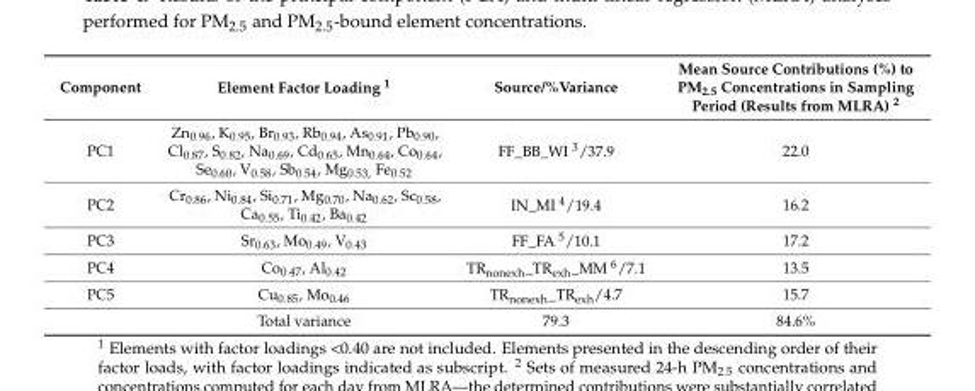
<table><thead><tr><td>Component</td><td>Element Factor Loading <sup>1</sup></td><td>Source/%Variance</td><td>Mean Source Contributions (%) to PM<sub>2.5</sub> Concentrations in Sampling Period (Results from MLRA) <sup>2</sup></td></tr></thead><tbody><tr><td>PC1</td><td>Zn<sub>0.96</sub>, K<sub>0.95</sub>, Br<sub>0.93</sub>, Rb<sub>0.94</sub>, As<sub>0.91</sub>, Pb<sub>0.90</sub>, Cl<sub>0.87</sub>, S<sub>0.82</sub>, Na<sub>0.69</sub>, Cd<sub>0.65</sub>, Mn<sub>0.64</sub>, Co<sub>0.64</sub>, Se<sub>0.60</sub>, V<sub>0.58</sub>, Sb<sub>0.54</sub>, Mg<sub>0.53,</sub> Fe<sub>0.52</sub></td><td>FF_BB_WI <sup>3</sup>/37.9</td><td>22.0</td></tr><tr><td>PC2</td><td>Cr<sub>0.86</sub>, Ni<sub>0.84</sub>, Si<sub>0.71</sub>, Mg<sub>0.70</sub>, Na<sub>0.62</sub>, Sc<sub>0.58</sub>, Ca<sub>0.55</sub>, Ti<sub>0.42</sub>, Ba<sub>0.42</sub></td><td>IN_MI <sup>4</sup>/19.4</td><td>16.2</td></tr><tr><td>PC3</td><td>Sr<sub>0.63</sub>, Mo<sub>0.49</sub>, V<sub>0.43</sub></td><td>FF_FA <sup>5</sup>/10.1</td><td>17.2</td></tr><tr><td>PC4</td><td>Co<sub>0.47</sub>, Al<sub>0.42</sub></td><td>TRnonexh_TRexh_MM 6/7.1</td><td>13.5</td></tr><tr><td rowspan="2">PC5</td><td>Cu<sub>0.85</sub>, Mo<sub>0.46</sub></td><td>TRnonexh_TRexh/4.7</td><td>15.7</td></tr><tr><td>Total variance</td><td>79.3</td><td>84.6%</td></tr></tbody></table>